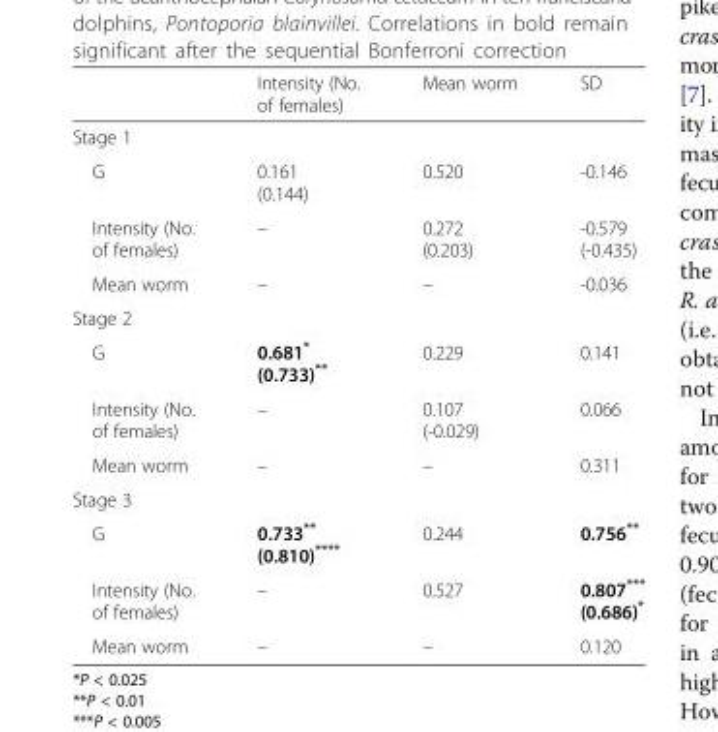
<table><thead><tr><td></td><td>Intensity (No. of females)</td><td>Mean worm</td><td>SD</td></tr></thead><tbody><tr><td colspan="4">Stage 1</td></tr><tr><td>G</td><td>0.161 (0.144)</td><td>0.520</td><td>-0.146</td></tr><tr><td>Intensity (No. of females)</td><td>–</td><td>0.272 (0.203)</td><td>-0.579 (-0.435)</td></tr><tr><td>Mean worm</td><td>–</td><td>–</td><td>-0.036</td></tr><tr><td colspan="4">Stage 2</td></tr><tr><td>G</td><td>0.681* (0.733)**</td><td>0.229</td><td>0.141</td></tr><tr><td>Intensity (No. of females)</td><td>–</td><td>0.107 (-0.029)</td><td>0.066</td></tr><tr><td>Mean worm</td><td>–</td><td>–</td><td>0.311</td></tr><tr><td colspan="4">Stage 3</td></tr><tr><td>G</td><td>0.733** (0.810)****</td><td>0.244</td><td>0.756**</td></tr><tr><td>Intensity (No. of females)</td><td>–</td><td>0.527</td><td>0.807*** (0.686)*</td></tr><tr><td>Mean worm</td><td>–</td><td>–</td><td>0.120</td></tr></tbody></table>